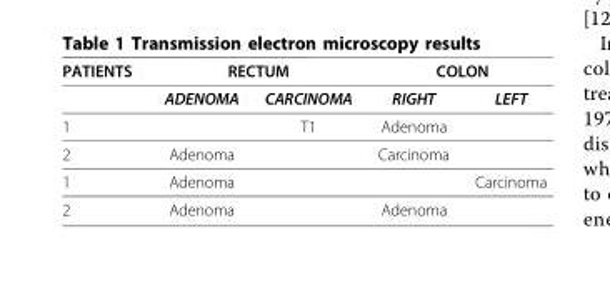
<table><thead><tr><td rowspan="2">PATIENTS</td><td colspan="2">RECTUM</td><td colspan="2">COLON</td></tr><tr><td>ADENOMA</td><td>CARCINOMA</td><td>RIGHT</td><td>LEFT</td></tr></thead><tbody><tr><td>1</td><td></td><td>T1</td><td>Adenoma</td><td></td></tr><tr><td>2</td><td>Adenoma</td><td></td><td>Carcinoma</td><td></td></tr><tr><td>1</td><td>Adenoma</td><td></td><td></td><td>Carcinoma</td></tr><tr><td>2</td><td>Adenoma</td><td></td><td>Adenoma</td><td></td></tr></tbody></table>